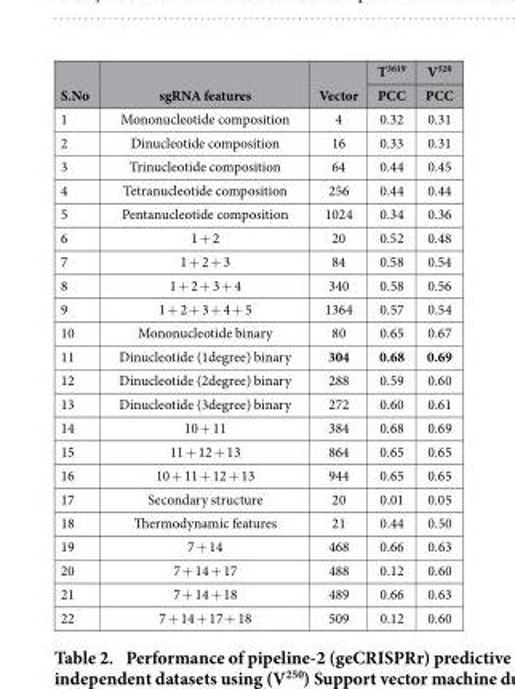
<table><thead><tr><td rowspan="2">S.No</td><td rowspan="2">sgRNA features</td><td rowspan="2">Vector</td><td rowspan="2">T<sup>3619</sup> PCC</td><td rowspan="2">V<sup>520</sup> PCC</td></tr><tr></tr></thead><tbody><tr><td>1</td><td>Mononucleotide composition</td><td>4</td><td>0.32</td><td>0.31</td></tr><tr><td>2</td><td>Dinucleotide composition</td><td>16</td><td>0.33</td><td>0.31</td></tr><tr><td>3</td><td>Trinucleotide composition</td><td>64</td><td>0.44</td><td>0.45</td></tr><tr><td>4</td><td>Tetranucleotide composition</td><td>256</td><td>0.44</td><td>0.44</td></tr><tr><td>5</td><td>Pentanucleotide composition</td><td>1024</td><td>0.34</td><td>0.36</td></tr><tr><td>6</td><td>1 + 2</td><td>20</td><td>0.52</td><td>0.48</td></tr><tr><td>7</td><td>1 + 2 + 3</td><td>84</td><td>0.58</td><td>0.54</td></tr><tr><td>8</td><td>1 + 2 + 3 + 4</td><td>340</td><td>0.58</td><td>0.56</td></tr><tr><td>9</td><td>1 + 2 + 3 + 4 + 5</td><td>1364</td><td>0.57</td><td>0.54</td></tr><tr><td>10</td><td>Mononucleotide binary</td><td>80</td><td>0.65</td><td>0.67</td></tr><tr><td>11</td><td>Dinucleotide (1degree) binary</td><td>304</td><td>0.68</td><td>0.69</td></tr><tr><td>12</td><td>Dinucleotide (2degree) binary</td><td>288</td><td>0.59</td><td>0.60</td></tr><tr><td>13</td><td>Dinucleotide (3degree) binary</td><td>272</td><td>0.60</td><td>0.61</td></tr><tr><td>14</td><td>10 + 11</td><td>384</td><td>0.68</td><td>0.69</td></tr><tr><td>15</td><td>11 + 12 + 13</td><td>864</td><td>0.65</td><td>0.65</td></tr><tr><td>16</td><td>10 + 11 + 12 + 13</td><td>944</td><td>0.65</td><td>0.65</td></tr><tr><td>17</td><td>Secondary structure</td><td>20</td><td>0.01</td><td>0.05</td></tr><tr><td>18</td><td>Thermodynamic features</td><td>21</td><td>0.44</td><td>0.50</td></tr><tr><td>19</td><td>7 + 14</td><td>468</td><td>0.66</td><td>0.63</td></tr><tr><td>20</td><td>7 + 14 + 17</td><td>488</td><td>0.12</td><td>0.60</td></tr><tr><td>21</td><td>7 + 14 + 18</td><td>489</td><td>0.66</td><td>0.63</td></tr><tr><td>22</td><td>7 + 14 + 17 + 18</td><td>509</td><td>0.12</td><td>0.60</td></tr></tbody></table>